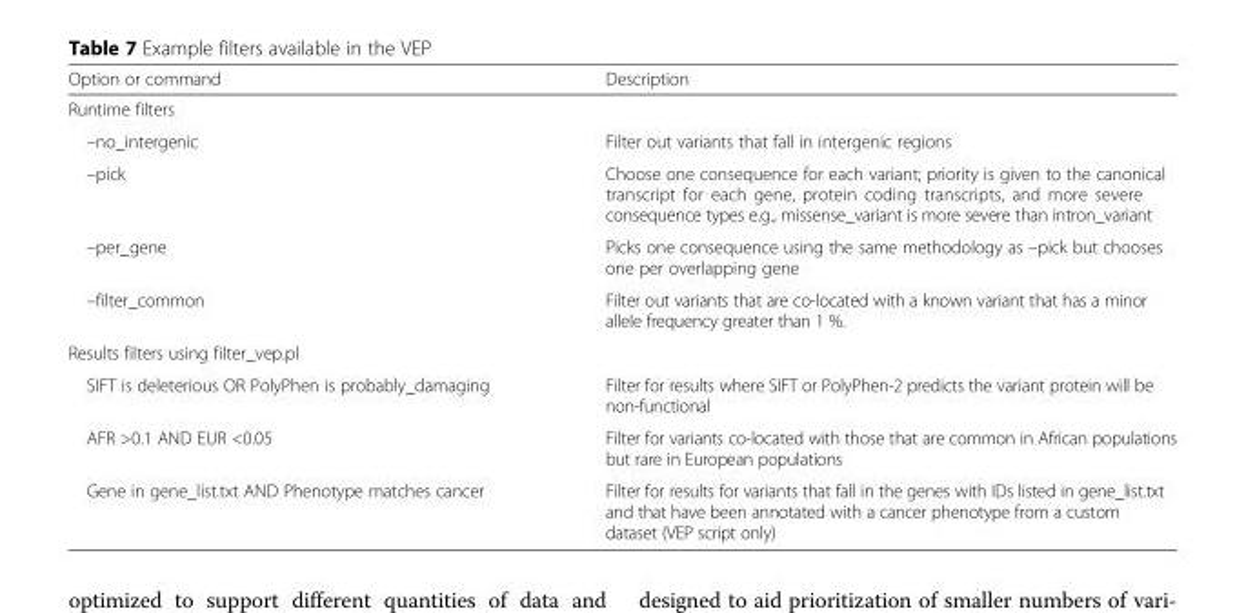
<table><thead><tr><td>Option or command</td><td>Description</td></tr></thead><tbody><tr><td colspan="2">Runtime filters</td></tr><tr><td>–no_intergenic</td><td>Filter out variants that fall in intergenic regions</td></tr><tr><td>–pick</td><td>Choose one consequence for each variant; priority is given to the canonical transcript for each gene, protein coding transcripts, and more severe consequence types e.g., missense_variant is more severe than intron_variant</td></tr><tr><td>–per_gene</td><td>Picks one consequence using the same methodology as –pick but chooses one per overlapping gene</td></tr><tr><td>–filter_common</td><td>Filter out variants that are co-located with a known variant that has a minor allele frequency greater than 1 %.</td></tr><tr><td colspan="2">Results filters using filter_vep.pl</td></tr><tr><td>SIFT is deleterious OR PolyPhen is probably_damaging</td><td>Filter for results where SIFT or PolyPhen-2 predicts the variant protein will be non-functional</td></tr><tr><td>AFR &gt;0.1 AND EUR &lt;0.05</td><td>Filter for variants co-located with those that are common in African populations but rare in European populations</td></tr><tr><td>Gene in gene_list.txt AND Phenotype matches cancer</td><td>Filter for results for variants that fall in the genes with IDs listed in gene_list.txt and that have been annotated with a cancer phenotype from a custom dataset (VEP script only)</td></tr></tbody></table>